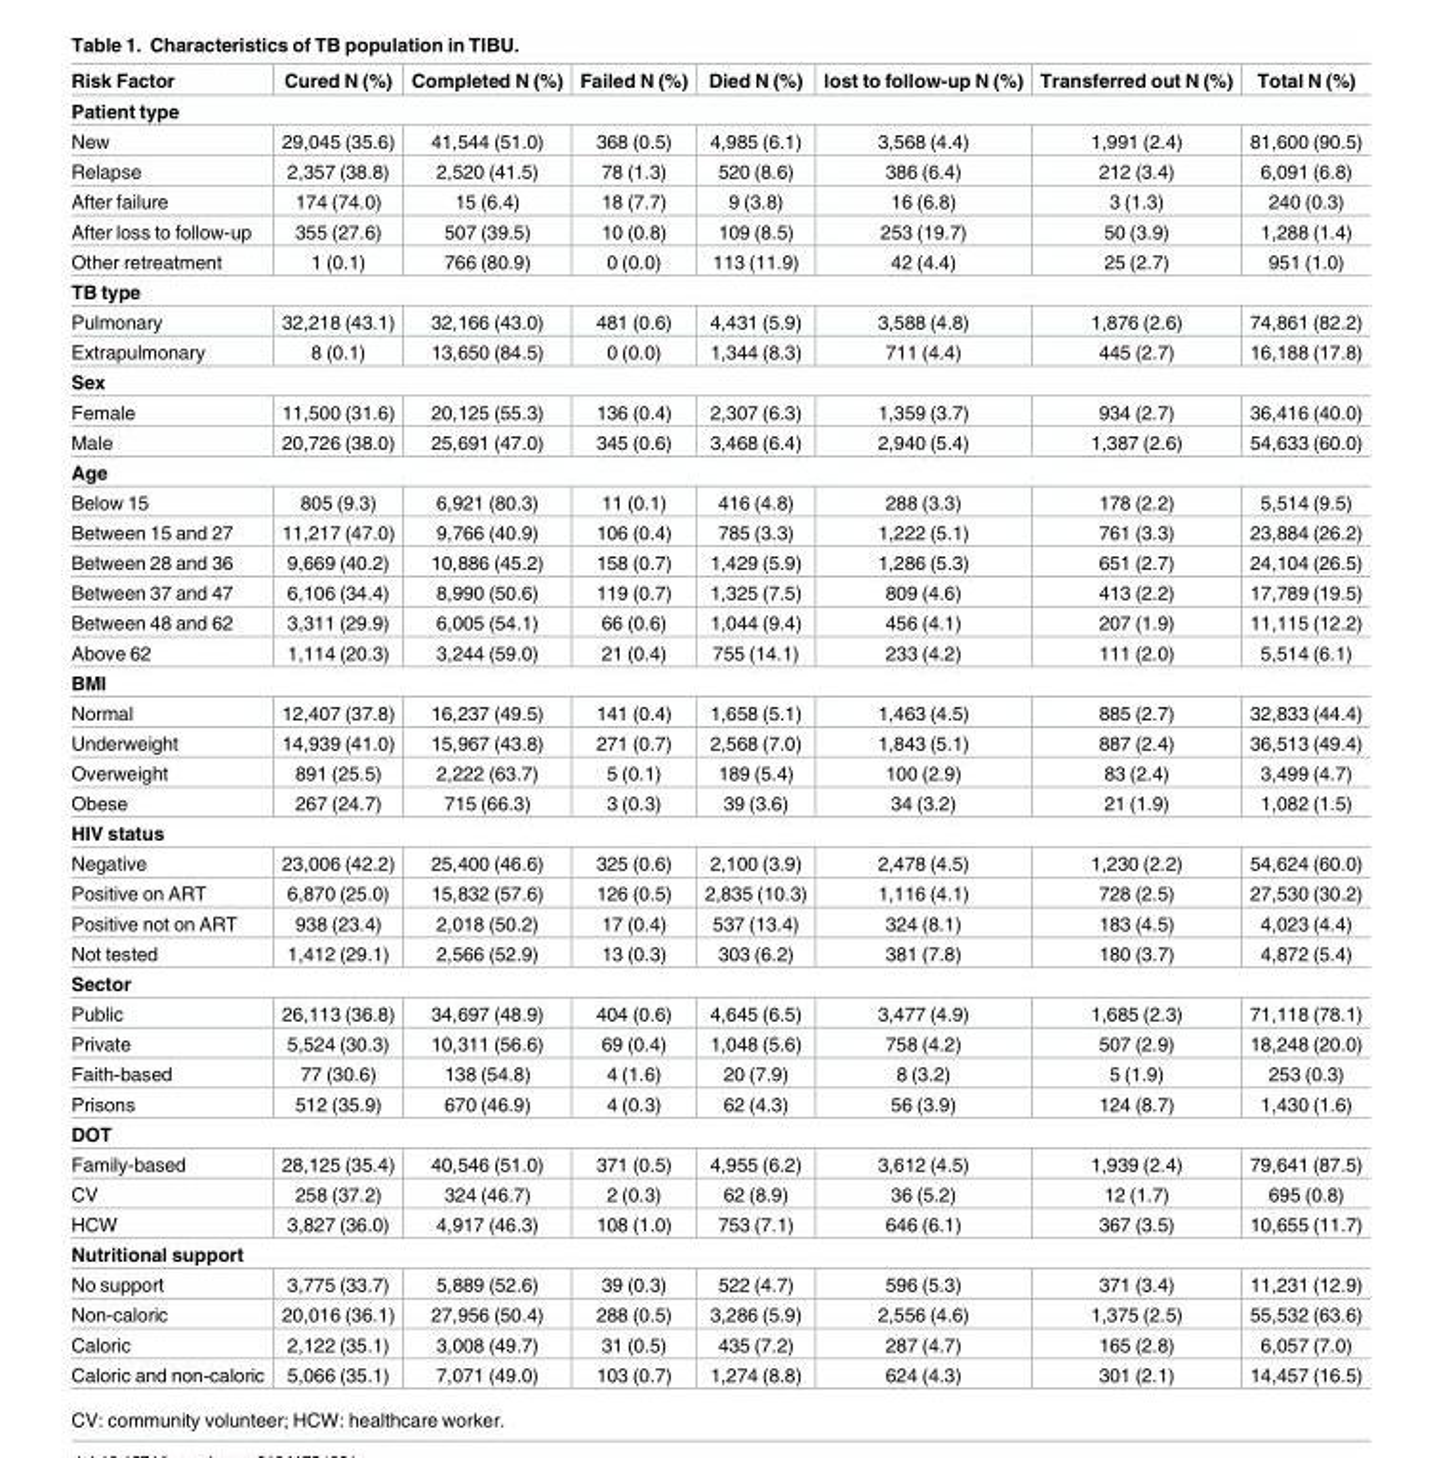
<table><thead><tr><td>Risk Factor</td><td>Cured N (%)</td><td>Completed N (%)</td><td>Failed N (%)</td><td>Died N (%)</td><td>lost to follow-up N (%)</td><td>Transferred out N (%)</td><td>Total N (%)</td></tr></thead><tbody><tr><td colspan="8">Patient type</td></tr><tr><td>New</td><td>29,045 (35.6)</td><td>41,544 (51.0)</td><td>368 (0.5)</td><td>4,985 (6.1)</td><td>3,568 (4.4)</td><td>1,991 (2.4)</td><td>81,600 (90.5)</td></tr><tr><td>Relapse</td><td>2,357 (38.8)</td><td>2,520 (41.5)</td><td>78 (1.3)</td><td>520 (8.6)</td><td>386 (6.4)</td><td>212 (3.4)</td><td>6,091 (6.8)</td></tr><tr><td>After failure</td><td>174 (74.0)</td><td>15 (6.4)</td><td>18 (7.7)</td><td>9 (3.8)</td><td>16 (6.8)</td><td>3 (1.3)</td><td>240 (0.3)</td></tr><tr><td>After loss to follow-up</td><td>355 (27.6)</td><td>507 (39.5)</td><td>10 (0.8)</td><td>109 (8.5)</td><td>253 (19.7)</td><td>50 (3.9)</td><td>1,288 (1.4)</td></tr><tr><td>Other retreatment</td><td>1 (0.1)</td><td>766 (80.9)</td><td>0 (0.0)</td><td>113 (11.9)</td><td>42 (4.4)</td><td>25 (2.7)</td><td>951 (1.0)</td></tr><tr><td colspan="8">TB type</td></tr><tr><td>Pulmonary</td><td>32,218 (43.1)</td><td>32,166 (43.0)</td><td>481 (0.6)</td><td>4,431 (5.9)</td><td>3,588 (4.8)</td><td>1,876 (2.6)</td><td>74,861 (82.2)</td></tr><tr><td>Extrapulmonary</td><td>8 (0.1)</td><td>13,650 (84.5)</td><td>0 (0.0)</td><td>1,344 (8.3)</td><td>711 (4.4)</td><td>445 (2.7)</td><td>16,188 (17.8)</td></tr><tr><td colspan="8">Sex</td></tr><tr><td>Female</td><td>11,500 (31.6)</td><td>20,125 (55.3)</td><td>136 (0.4)</td><td>2,307 (6.3)</td><td>1,359 (3.7)</td><td>934 (2.7)</td><td>36,416 (40.0)</td></tr><tr><td>Male</td><td>20,726 (38.0)</td><td>25,691 (47.0)</td><td>345 (0.6)</td><td>3,468 (6.4)</td><td>2,940 (5.4)</td><td>1,387 (2.6)</td><td>54,633 (60.0)</td></tr><tr><td colspan="8">Age</td></tr><tr><td>Below 15</td><td>805 (9.3)</td><td>6,921 (80.3)</td><td>11 (0.1)</td><td>416 (4.8)</td><td>288 (3.3)</td><td>178 (2.2)</td><td>5,514 (9.5)</td></tr><tr><td>Between 15 and 27</td><td>11,217 (47.0)</td><td>9,766 (40.9)</td><td>106 (0.4)</td><td>785 (3.3)</td><td>1,222 (5.1)</td><td>761 (3.3)</td><td>23,884 (26.2)</td></tr><tr><td>Between 28 and 36</td><td>9,669 (40.2)</td><td>10,886 (45.2)</td><td>158 (0.7)</td><td>1,429 (5.9)</td><td>1,286 (5.3)</td><td>651 (2.7)</td><td>24,104 (26.5)</td></tr><tr><td>Between 37 and 47</td><td>6,106 (34.4)</td><td>8,990 (50.6)</td><td>119 (0.7)</td><td>1,325 (7.5)</td><td>809 (4.6)</td><td>413 (2.2)</td><td>17,789 (19.5)</td></tr><tr><td>Between 48 and 62</td><td>3,311 (29.9)</td><td>6,005 (54.1)</td><td>66 (0.6)</td><td>1,044 (9.4)</td><td>456 (4.1)</td><td>207 (1.9)</td><td>11,115 (12.2)</td></tr><tr><td>Above 62</td><td>1,114 (20.3)</td><td>3,244 (59.0)</td><td>21 (0.4)</td><td>755 (14.1)</td><td>233 (4.2)</td><td>111 (2.0)</td><td>5,514 (6.1)</td></tr><tr><td colspan="8">BMI</td></tr><tr><td>Normal</td><td>12,407 (37.8)</td><td>16,237 (49.5)</td><td>141 (0.4)</td><td>1,658 (5.1)</td><td>1,463 (4.5)</td><td>885 (2.7)</td><td>32,833 (44.4)</td></tr><tr><td>Underweight</td><td>14,939 (41.0)</td><td>15,967 (43.8)</td><td>271 (0.7)</td><td>2,568 (7.0)</td><td>1,843 (5.1)</td><td>887 (2.4)</td><td>36,513 (49.4)</td></tr><tr><td>Overweight</td><td>891 (25.5)</td><td>2,222 (63.7)</td><td>5 (0.1)</td><td>189 (5.4)</td><td>100 (2.9)</td><td>83 (2.4)</td><td>3,499 (4.7)</td></tr><tr><td>Obese</td><td>267 (24.7)</td><td>715 (66.3)</td><td>3 (0.3)</td><td>39 (3.6)</td><td>34 (3.2)</td><td>21 (1.9)</td><td>1,082 (1.5)</td></tr><tr><td colspan="8">HIV status</td></tr><tr><td>Negative</td><td>23,006 (42.2)</td><td>25,400 (46.6)</td><td>325 (0.6)</td><td>2,100 (3.9)</td><td>2,478 (4.5)</td><td>1,230 (2.2)</td><td>54,624 (60.0)</td></tr><tr><td>Positive on ART</td><td>6,870 (25.0)</td><td>15,832 (57.6)</td><td>126 (0.5)</td><td>2,835 (10.3)</td><td>1,116 (4.1)</td><td>728 (2.5)</td><td>27,530 (30.2)</td></tr><tr><td>Positive not on ART</td><td>938 (23.4)</td><td>2,018 (50.2)</td><td>17 (0.4)</td><td>537 (13.4)</td><td>324 (8.1)</td><td>183 (4.5)</td><td>4,023 (4.4)</td></tr><tr><td>Not tested</td><td>1,412 (29.1)</td><td>2,566 (52.9)</td><td>13 (0.3)</td><td>303 (6.2)</td><td>381 (7.8)</td><td>180 (3.7)</td><td>4,872 (5.4)</td></tr><tr><td colspan="8">Sector</td></tr><tr><td>Public</td><td>26,113 (36.8)</td><td>34,697 (48.9)</td><td>404 (0.6)</td><td>4,645 (6.5)</td><td>3,477 (4.9)</td><td>1,685 (2.3)</td><td>71,118 (78.1)</td></tr><tr><td>Private</td><td>5,524 (30.3)</td><td>10,311 (56.6)</td><td>69 (0.4)</td><td>1,048 (5.6)</td><td>758 (4.2)</td><td>507 (2.9)</td><td>18,248 (20.0)</td></tr><tr><td>Faith-based</td><td>77 (30.6)</td><td>138 (54.8)</td><td>4 (1.6)</td><td>20 (7.9)</td><td>8 (3.2)</td><td>5 (1.9)</td><td>253 (0.3)</td></tr><tr><td>Prisons</td><td>512 (35.9)</td><td>670 (46.9)</td><td>4 (0.3)</td><td>62 (4.3)</td><td>56 (3.9)</td><td>124 (8.7)</td><td>1,430 (1.6)</td></tr><tr><td colspan="8">DOT</td></tr><tr><td>Family-based</td><td>28,125 (35.4)</td><td>40,546 (51.0)</td><td>371 (0.5)</td><td>4,955 (6.2)</td><td>3,612 (4.5)</td><td>1,939 (2.4)</td><td>79,641 (87.5)</td></tr><tr><td>CV</td><td>258 (37.2)</td><td>324 (46.7)</td><td>2 (0.3)</td><td>62 (8.9)</td><td>36 (5.2)</td><td>12 (1.7)</td><td>695 (0.8)</td></tr><tr><td>HCW</td><td>3,827 (36.0)</td><td>4,917 (46.3)</td><td>108 (1.0)</td><td>753 (7.1)</td><td>646 (6.1)</td><td>367 (3.5)</td><td>10,655 (11.7)</td></tr><tr><td colspan="8">Nutritional support</td></tr><tr><td>No support</td><td>3,775 (33.7)</td><td>5,889 (52.6)</td><td>39 (0.3)</td><td>522 (4.7)</td><td>596 (5.3)</td><td>371 (3.4)</td><td>11,231 (12.9)</td></tr><tr><td>Non-caloric</td><td>20,016 (36.1)</td><td>27,956 (50.4)</td><td>288 (0.5)</td><td>3,286 (5.9)</td><td>2,556 (4.6)</td><td>1,375 (2.5)</td><td>55,532 (63.6)</td></tr><tr><td>Caloric</td><td>2,122 (35.1)</td><td>3,008 (49.7)</td><td>31 (0.5)</td><td>435 (7.2)</td><td>287 (4.7)</td><td>165 (2.8)</td><td>6,057 (7.0)</td></tr><tr><td>Caloric and non-caloric</td><td>5,066 (35.1)</td><td>7,071 (49.0)</td><td>103 (0.7)</td><td>1,274 (8.8)</td><td>624 (4.3)</td><td>301 (2.1)</td><td>14,457 (16.5)</td></tr></tbody></table>